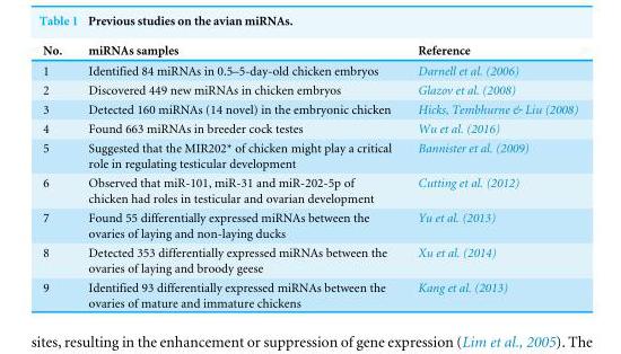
<table><thead><tr><td>No.</td><td>miRNAs samples</td><td>Reference</td></tr></thead><tbody><tr><td>1</td><td>Identified 84 miRNAs in 0.5–5-day-old chicken embryos</td><td>Darnell et al. (2006)</td></tr><tr><td>2</td><td>Discovered 449 new miRNAs in chicken embryos</td><td>Glazov et al. (2008)</td></tr><tr><td>3</td><td>Detected 160 miRNAs (14 novel) in the embryonic chicken</td><td>Hicks, Tembhurne &amp; Liu (2008)</td></tr><tr><td>4</td><td>Found 663 miRNAs in breeder cock testes</td><td>Wu et al. (2016)</td></tr><tr><td>5</td><td>Suggested that the MIR202* of chicken might play a critical role in regulating testicular development</td><td>Bannister et al. (2009)</td></tr><tr><td>6</td><td>Observed that miR-101, miR-31 and miR-202-5p of chicken had roles in testicular and ovarian development</td><td>Cutting et al. (2012)</td></tr><tr><td>7</td><td>Found 55 differentially expressed miRNAs between the ovaries of laying and non-laying ducks</td><td>Yu et al. (2013)</td></tr><tr><td>8</td><td>Detected 353 differentially expressed miRNAs between the ovaries of laying and broody geese</td><td>Xu et al. (2014)</td></tr><tr><td>9</td><td>Identified 93 differentially expressed miRNAs between the ovaries of mature and immature chickens</td><td>Kang et al. (2013)</td></tr></tbody></table>